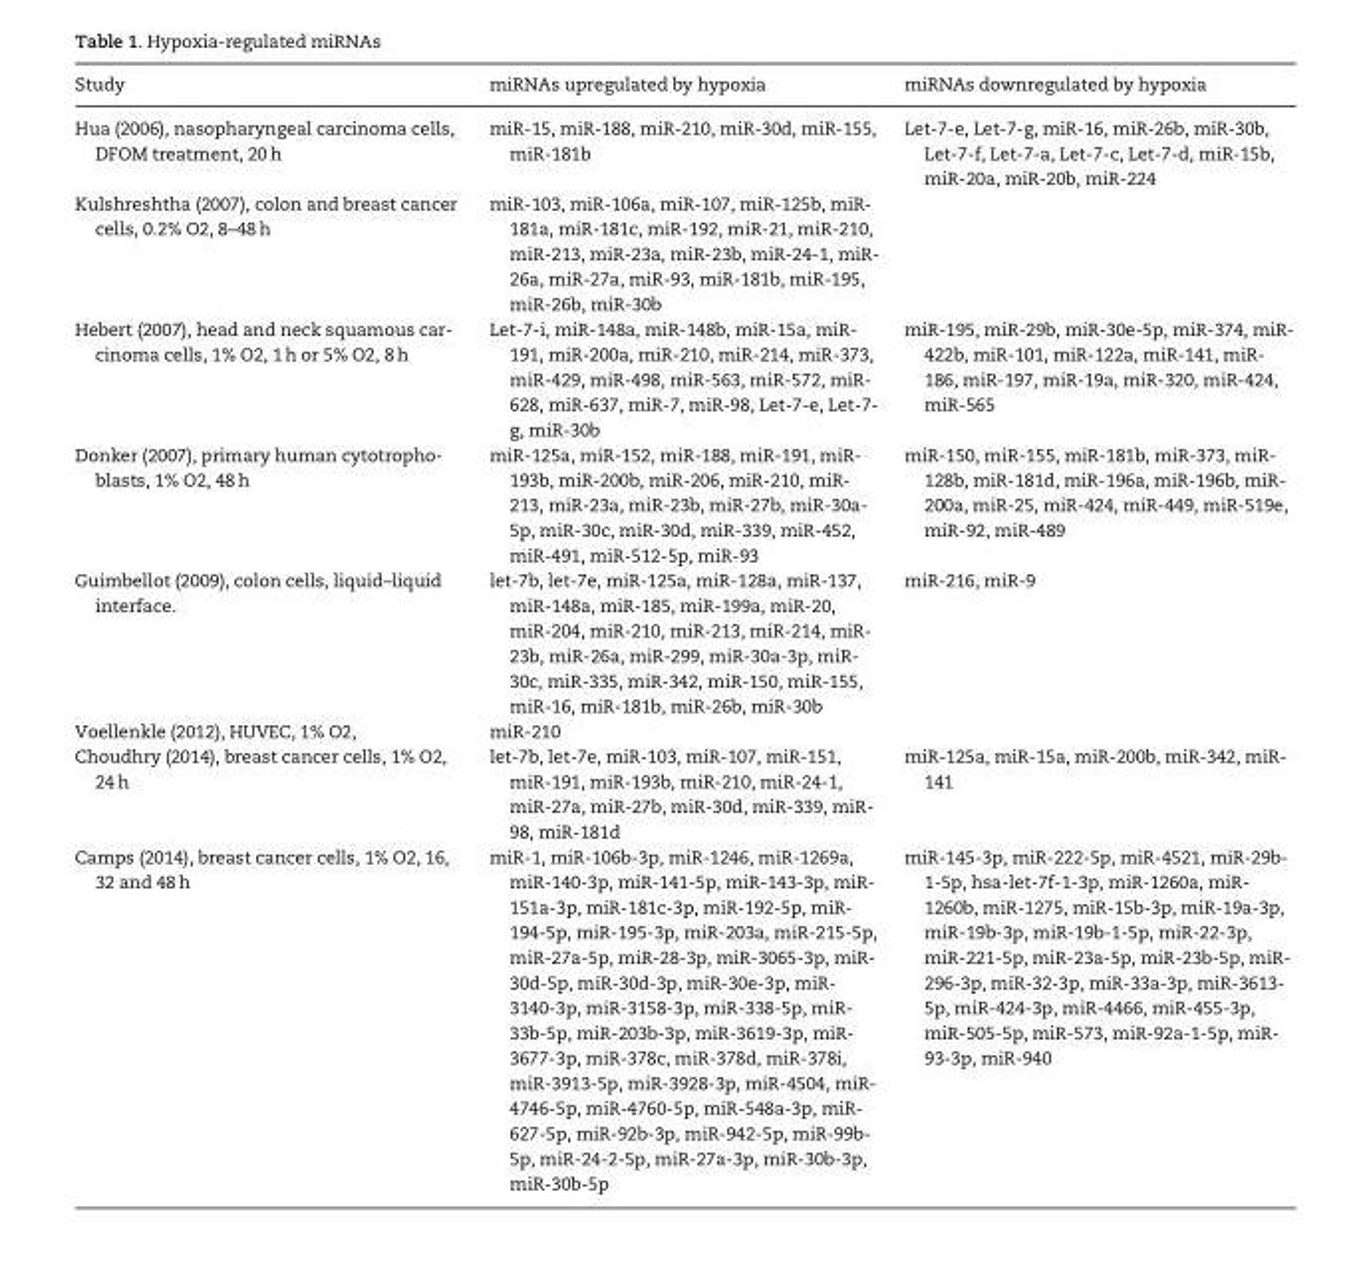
<table><thead><tr><td>Study</td><td>miRNAs upregulated by hypoxia</td><td>miRNAs downregulated by hypoxia</td></tr></thead><tbody><tr><td>Hua (2006), nasopharyngeal carcinoma cells, DFOM treatment, 20 h</td><td>miR-15, miR-188, miR-210, miR-30d, miR-155, miR-181b</td><td>Let-7-e, Let-7-g, miR-16, miR-26b, miR-30b, Let-7-f, Let-7-a, Let-7-c, Let-7-d, miR-15b, miR-20a, miR-20b, miR-224</td></tr><tr><td>Kulshreshtha (2007), colon and breast cancer cells, 0.2% O2, 8–48 h</td><td>miR-103, miR-106a, miR-107, miR-125b, miR- 181a, miR-181c, miR-192, miR-21, miR-210, miR-213, miR-23a, miR-23b, miR-24-1, miR- 26a, miR-27a, miR-93, miR-181b, miR-195, miR-26b, miR-30b</td><td></td></tr><tr><td>Hebert (2007), head and neck squamous car- cinoma cells, 1% O2, 1 h or 5% O2, 8 h</td><td>Let-7-i, miR-148a, miR-148b, miR-15a, miR- 191, miR-200a, miR-210, miR-214, miR-373, miR-429, miR-498, miR-563, miR-572, miR- 628, miR-637, miR-7, miR-98, Let-7-e, Let-7- g, miR-30b</td><td>miR-195, miR-29b, miR-30e-5p, miR-374, miR- 422b, miR-101, miR-122a, miR-141, miR- 186, miR-197, miR-19a, miR-320, miR-424, miR-565</td></tr><tr><td>Donker (2007), primary human cytotropho- blasts, 1% O2, 48 h</td><td>miR-125a, miR-152, miR-188, miR-191, miR- 193b, miR-200b, miR-206, miR-210, miR- 213, miR-23a, miR-23b, miR-27b, miR-30a- 5p, miR-30c, miR-30d, miR-339, miR-452, miR-491, miR-512-5p, miR-93</td><td>miR-150, miR-155, miR-181b, miR-373, miR- 128b, miR-181d, miR-196a, miR-196b, miR- 200a, miR-25, miR-424, miR-449, miR-519e, miR-92, miR-489</td></tr><tr><td>Guimbellot (2009), colon cells, liquid–liquid interface.</td><td>let-7b, let-7e, miR-125a, miR-128a, miR-137, miR-148a, miR-185, miR-199a, miR-20, miR-204, miR-210, miR-213, miR-214, miR- 23b, miR-26a, miR-299, miR-30a-3p, miR- 30c, miR-335, miR-342, miR-150, miR-155, miR-16, miR-181b, miR-26b, miR-30b</td><td>miR-216, miR-9</td></tr><tr><td>Voellenkle (2012), HUVEC, 1% O2,</td><td>miR-210</td><td></td></tr><tr><td>Choudhry (2014), breast cancer cells, 1% O2, 24 h</td><td>let-7b, let-7e, miR-103, miR-107, miR-151, miR-191, miR-193b, miR-210, miR-24-1, miR-27a, miR-27b, miR-30d, miR-339, miR- 98, miR-181d</td><td>miR-125a, miR-15a, miR-200b, miR-342, miR- 141</td></tr><tr><td>Camps (2014), breast cancer cells, 1% O2, 16, 32 and 48 h</td><td>miR-1, miR-106b-3p, miR-1246, miR-1269a, miR-140-3p, miR-141-5p, miR-143-3p, miR- 151a-3p, miR-181c-3p, miR-192-5p, miR- 194-5p, miR-195-3p, miR-203a, miR-215-5p, miR-27a-5p, miR-28-3p, miR-3065-3p, miR- 30d-5p, miR-30d-3p, miR-30e-3p, miR- 3140-3p, miR-3158-3p, miR-338-5p, miR- 33b-5p, miR-203b-3p, miR-3619-3p, miR- 3677-3p, miR-378c, miR-378d, miR-378i, miR-3913-5p, miR-3928-3p, miR-4504, miR- 4746-5p, miR-4760-5p, miR-548a-3p, miR- 627-5p, miR-92b-3p, miR-942-5p, miR-99b- 5p, miR-24-2-5p, miR-27a-3p, miR-30b-3p, miR-30b-5p</td><td>miR-145-3p, miR-222-5p, miR-4521, miR-29b- 1-5p, hsa-let-7f-1-3p, miR-1260a, miR- 1260b, miR-1275, miR-15b-3p, miR-19a-3p, miR-19b-3p, miR-19b-1-5p, miR-22-3p, miR-221-5p, miR-23a-5p, miR-23b-5p, miR- 296-3p, miR-32-3p, miR-33a-3p, miR-3613- 5p, miR-424-3p, miR-4466, miR-455-3p, miR-505-5p, miR-573, miR-92a-1-5p, miR- 93-3p, miR-940</td></tr></tbody></table>